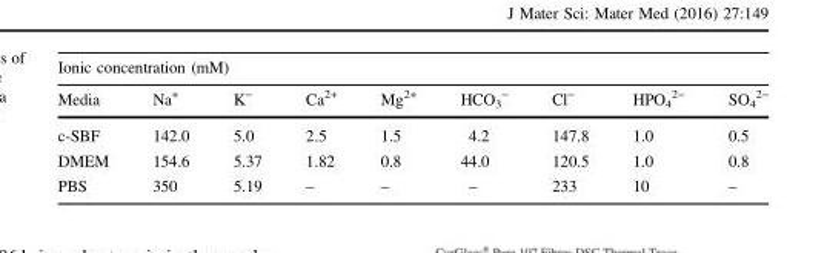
<table><thead><tr><td colspan="9">Ionic concentration (mM)</td></tr><tr><td>Media</td><td>Na<sup>+</sup></td><td>K<sup>−</sup></td><td>Ca<sup>2+</sup></td><td>Mg<sup>2+</sup></td><td>HCO<sub>3</sub> <sup>−</sup></td><td>Cl<sup>−</sup></td><td>HPO<sub>4</sub> <sup>2−</sup></td><td>SO<sub>4</sub> <sup>2−</sup></td></tr></thead><tbody><tr><td>c-SBF</td><td>142.0</td><td>5.0</td><td>2.5</td><td>1.5</td><td>4.2</td><td>147.8</td><td>1.0</td><td>0.5</td></tr><tr><td>DMEM</td><td>154.6</td><td>5.37</td><td>1.82</td><td>0.8</td><td>44.0</td><td>120.5</td><td>1.0</td><td>0.8</td></tr><tr><td>PBS</td><td>350</td><td>5.19</td><td>–</td><td>–</td><td>–</td><td>233</td><td>10</td><td>–</td></tr></tbody></table>